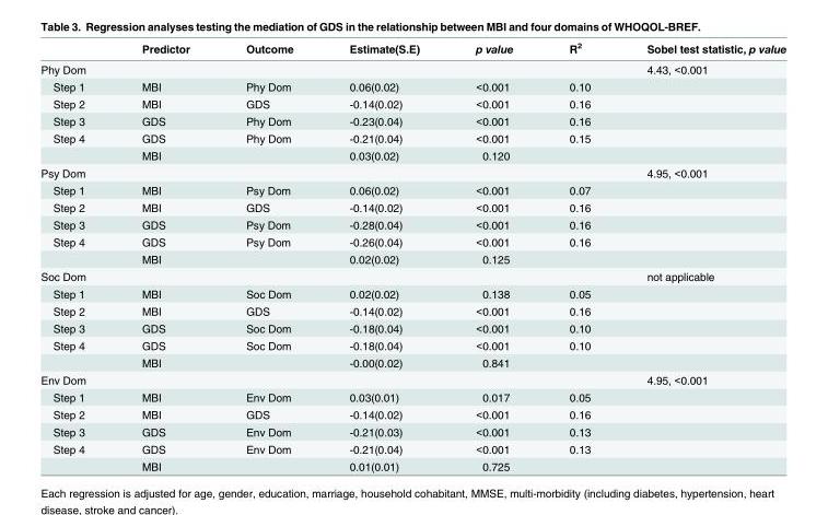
<table><thead><tr><td></td><td>Predictor</td><td>Outcome</td><td>Estimate(S.E)</td><td>p value</td><td>R<sup>2</sup></td><td>Sobel test statistic, p value</td></tr></thead><tbody><tr><td>Phy Dom</td><td></td><td></td><td></td><td></td><td></td><td>4.43, &lt;0.001</td></tr><tr><td>Step 1</td><td>MBI</td><td>Phy Dom</td><td>0.06(0.02)</td><td>&lt;0.001</td><td>0.10</td><td></td></tr><tr><td>Step 2</td><td>MBI</td><td>GDS</td><td>-0.14(0.02)</td><td>&lt;0.001</td><td>0.16</td><td></td></tr><tr><td>Step 3</td><td>GDS</td><td>Phy Dom</td><td>-0.23(0.04)</td><td>&lt;0.001</td><td>0.16</td><td></td></tr><tr><td rowspan="2">Step 4</td><td>GDS</td><td>Phy Dom</td><td>-0.21(0.04)</td><td>&lt;0.001</td><td>0.15</td><td></td></tr><tr><td>MBI</td><td></td><td>0.03(0.02)</td><td>0.120</td><td></td><td></td></tr><tr><td>Psy Dom</td><td></td><td></td><td></td><td></td><td></td><td>4.95, &lt;0.001</td></tr><tr><td>Step 1</td><td>MBI</td><td>Psy Dom</td><td>0.06(0.02)</td><td>&lt;0.001</td><td>0.07</td><td></td></tr><tr><td>Step 2</td><td>MBI</td><td>GDS</td><td>-0.14(0.02)</td><td>&lt;0.001</td><td>0.16</td><td></td></tr><tr><td>Step 3</td><td>GDS</td><td>Psy Dom</td><td>-0.28(0.04)</td><td>&lt;0.001</td><td>0.16</td><td></td></tr><tr><td rowspan="2">Step 4</td><td>GDS</td><td>Psy Dom</td><td>-0.26(0.04)</td><td>&lt;0.001</td><td>0.16</td><td></td></tr><tr><td>MBI</td><td></td><td>0.02(0.02)</td><td>0.125</td><td></td><td></td></tr><tr><td>Soc Dom</td><td></td><td></td><td></td><td></td><td></td><td>not applicable</td></tr><tr><td>Step 1</td><td>MBI</td><td>Soc Dom</td><td>0.02(0.02)</td><td>0.138</td><td>0.05</td><td></td></tr><tr><td>Step 2</td><td>MBI</td><td>GDS</td><td>-0.14(0.02)</td><td>&lt;0.001</td><td>0.16</td><td></td></tr><tr><td>Step 3</td><td>GDS</td><td>Soc Dom</td><td>-0.18(0.04)</td><td>&lt;0.001</td><td>0.10</td><td></td></tr><tr><td rowspan="2">Step 4</td><td>GDS</td><td>Soc Dom</td><td>-0.18(0.04)</td><td>&lt;0.001</td><td>0.10</td><td></td></tr><tr><td>MBI</td><td></td><td>-0.00(0.02)</td><td>0.841</td><td></td><td></td></tr><tr><td>Env Dom</td><td></td><td></td><td></td><td></td><td></td><td>4.95, &lt;0.001</td></tr><tr><td>Step 1</td><td>MBI</td><td>Env Dom</td><td>0.03(0.01)</td><td>0.017</td><td>0.05</td><td></td></tr><tr><td>Step 2</td><td>MBI</td><td>GDS</td><td>-0.14(0.02)</td><td>&lt;0.001</td><td>0.16</td><td></td></tr><tr><td>Step 3</td><td>GDS</td><td>Env Dom</td><td>-0.21(0.03)</td><td>&lt;0.001</td><td>0.13</td><td></td></tr><tr><td rowspan="2">Step 4</td><td>GDS</td><td>Env Dom</td><td>-0.21(0.04)</td><td>&lt;0.001</td><td>0.13</td><td></td></tr><tr><td>MBI</td><td></td><td>0.01(0.01)</td><td>0.725</td><td></td><td></td></tr></tbody></table>